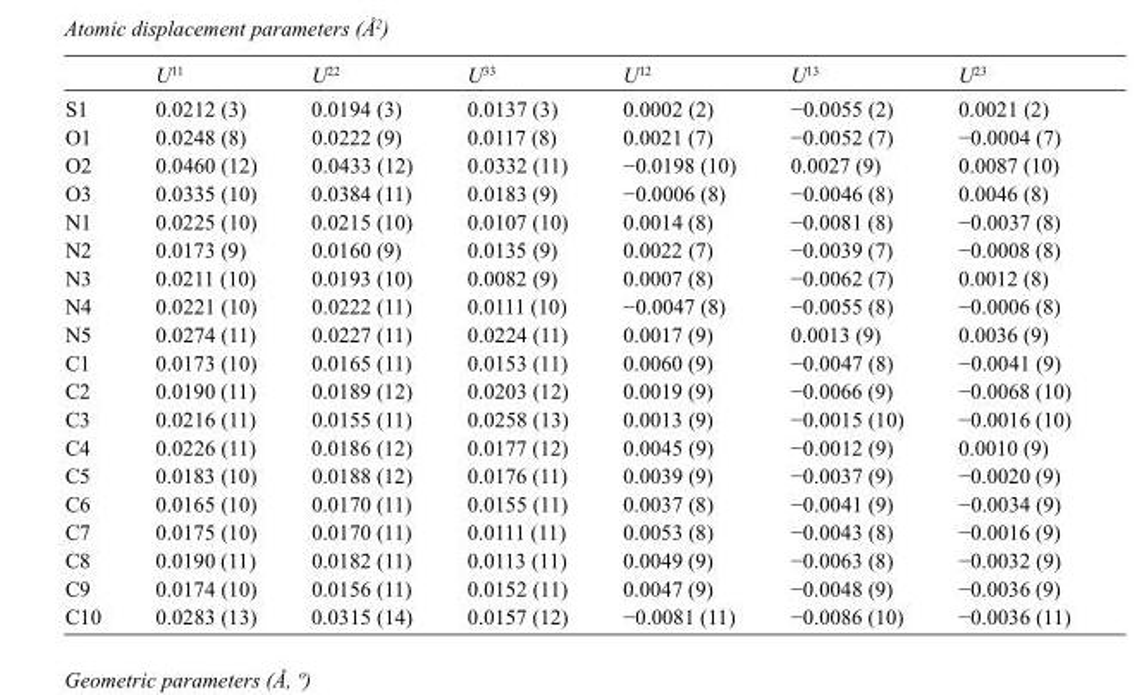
<table><thead><tr><td></td><td>U<sup>11</sup></td><td>U<sup>22</sup></td><td>U<sup>33</sup></td><td>U<sup>12</sup></td><td>U<sup>13</sup></td><td>U<sup>23</sup></td></tr></thead><tbody><tr><td>S1</td><td>0.0212 (3)</td><td>0.0194 (3)</td><td>0.0137 (3)</td><td>0.0002 (2)</td><td>−0.0055 (2)</td><td>0.0021 (2)</td></tr><tr><td>O1</td><td>0.0248 (8)</td><td>0.0222 (9)</td><td>0.0117 (8)</td><td>0.0021 (7)</td><td>−0.0052 (7)</td><td>−0.0004 (7)</td></tr><tr><td>O2</td><td>0.0460 (12)</td><td>0.0433 (12)</td><td>0.0332 (11)</td><td>−0.0198 (10)</td><td>0.0027 (9)</td><td>0.0087 (10)</td></tr><tr><td>O3</td><td>0.0335 (10)</td><td>0.0384 (11)</td><td>0.0183 (9)</td><td>−0.0006 (8)</td><td>−0.0046 (8)</td><td>0.0046 (8)</td></tr><tr><td>N1</td><td>0.0225 (10)</td><td>0.0215 (10)</td><td>0.0107 (10)</td><td>0.0014 (8)</td><td>−0.0081 (8)</td><td>−0.0037 (8)</td></tr><tr><td>N2</td><td>0.0173 (9)</td><td>0.0160 (9)</td><td>0.0135 (9)</td><td>0.0022 (7)</td><td>−0.0039 (7)</td><td>−0.0008 (8)</td></tr><tr><td>N3</td><td>0.0211 (10)</td><td>0.0193 (10)</td><td>0.0082 (9)</td><td>0.0007 (8)</td><td>−0.0062 (7)</td><td>0.0012 (8)</td></tr><tr><td>N4</td><td>0.0221 (10)</td><td>0.0222 (11)</td><td>0.0111 (10)</td><td>−0.0047 (8)</td><td>−0.0055 (8)</td><td>−0.0006 (8)</td></tr><tr><td>N5</td><td>0.0274 (11)</td><td>0.0227 (11)</td><td>0.0224 (11)</td><td>0.0017 (9)</td><td>0.0013 (9)</td><td>0.0036 (9)</td></tr><tr><td>C1</td><td>0.0173 (10)</td><td>0.0165 (11)</td><td>0.0153 (11)</td><td>0.0060 (9)</td><td>−0.0047 (8)</td><td>−0.0041 (9)</td></tr><tr><td>C2</td><td>0.0190 (11)</td><td>0.0189 (12)</td><td>0.0203 (12)</td><td>0.0019 (9)</td><td>−0.0066 (9)</td><td>−0.0068 (10)</td></tr><tr><td>C3</td><td>0.0216 (11)</td><td>0.0155 (11)</td><td>0.0258 (13)</td><td>0.0013 (9)</td><td>−0.0015 (10)</td><td>−0.0016 (10)</td></tr><tr><td>C4</td><td>0.0226 (11)</td><td>0.0186 (12)</td><td>0.0177 (12)</td><td>0.0045 (9)</td><td>−0.0012 (9)</td><td>0.0010 (9)</td></tr><tr><td>C5</td><td>0.0183 (10)</td><td>0.0188 (12)</td><td>0.0176 (11)</td><td>0.0039 (9)</td><td>−0.0037 (9)</td><td>−0.0020 (9)</td></tr><tr><td>C6</td><td>0.0165 (10)</td><td>0.0170 (11)</td><td>0.0155 (11)</td><td>0.0037 (8)</td><td>−0.0041 (9)</td><td>−0.0034 (9)</td></tr><tr><td>C7</td><td>0.0175 (10)</td><td>0.0170 (11)</td><td>0.0111 (11)</td><td>0.0053 (8)</td><td>−0.0043 (8)</td><td>−0.0016 (9)</td></tr><tr><td>C8</td><td>0.0190 (11)</td><td>0.0182 (11)</td><td>0.0113 (11)</td><td>0.0049 (9)</td><td>−0.0063 (8)</td><td>−0.0032 (9)</td></tr><tr><td>C9</td><td>0.0174 (10)</td><td>0.0156 (11)</td><td>0.0152 (11)</td><td>0.0047 (9)</td><td>−0.0048 (9)</td><td>−0.0036 (9)</td></tr><tr><td>C10</td><td>0.0283 (13)</td><td>0.0315 (14)</td><td>0.0157 (12)</td><td>−0.0081 (11)</td><td>−0.0086 (10)</td><td>−0.0036 (11)</td></tr></tbody></table>